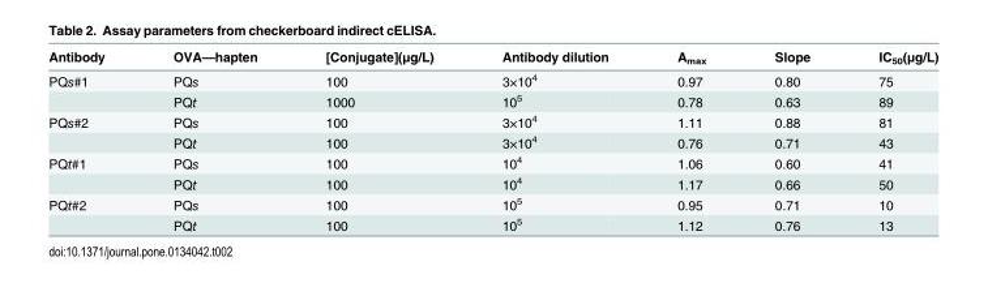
<table><thead><tr><td>Antibody</td><td>OVA—hapten</td><td>[Conjugate](μg/L)</td><td>Antibody dilution</td><td>A<sub>max</sub></td><td>Slope</td><td>IC<sub>50</sub>(μg/L)</td></tr></thead><tbody><tr><td rowspan="2">PQs#1</td><td>PQs</td><td>100</td><td>3×10<sup>4</sup></td><td>0.97</td><td>0.80</td><td>75</td></tr><tr><td>PQt</td><td>1000</td><td>10<sup>5</sup></td><td>0.78</td><td>0.63</td><td>89</td></tr><tr><td rowspan="2">PQs#2</td><td>PQs</td><td>100</td><td>3×10<sup>4</sup></td><td>1.11</td><td>0.88</td><td>81</td></tr><tr><td>PQt</td><td>100</td><td>3×10<sup>4</sup></td><td>0.76</td><td>0.71</td><td>43</td></tr><tr><td rowspan="2">PQt#1</td><td>PQs</td><td>100</td><td>10<sup>4</sup></td><td>1.06</td><td>0.60</td><td>41</td></tr><tr><td>PQt</td><td>100</td><td>10<sup>4</sup></td><td>1.17</td><td>0.66</td><td>50</td></tr><tr><td rowspan="2">PQt#2</td><td>PQs</td><td>100</td><td>10<sup>5</sup></td><td>0.95</td><td>0.71</td><td>10</td></tr><tr><td>PQt</td><td>100</td><td>10<sup>5</sup></td><td>1.12</td><td>0.76</td><td>13</td></tr></tbody></table>